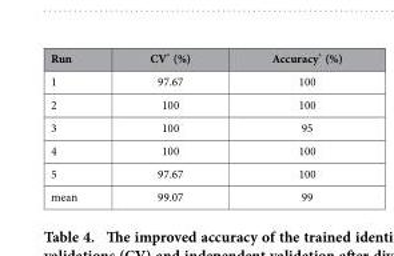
<table><thead><tr><td>Run</td><td>CV* (%)</td><td>Accuracy* (%)</td></tr></thead><tbody><tr><td>1</td><td>97.67</td><td>100</td></tr><tr><td>2</td><td>100</td><td>100</td></tr><tr><td>3</td><td>100</td><td>95</td></tr><tr><td>4</td><td>100</td><td>100</td></tr><tr><td>5</td><td>97.67</td><td>100</td></tr><tr><td>mean</td><td>99.07</td><td>99</td></tr></tbody></table>